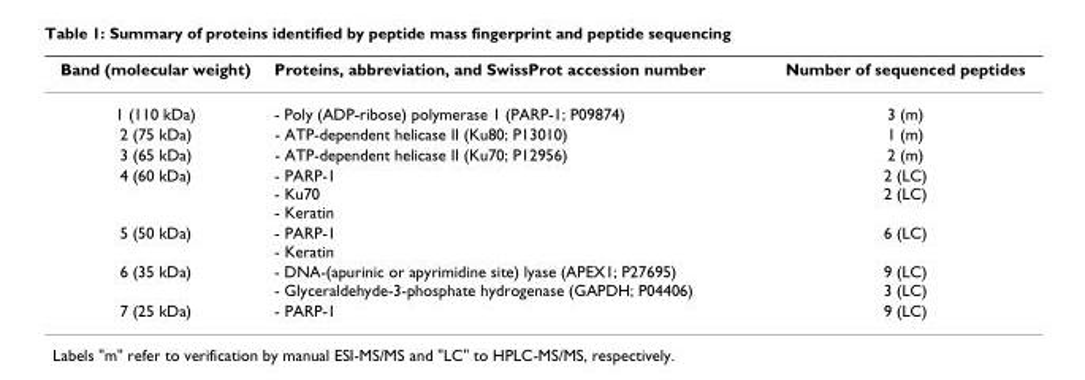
<table><thead><tr><td>Band (molecular weight)</td><td>Proteins, abbreviation, and SwissProt accession number</td><td>Number of sequenced peptides</td></tr></thead><tbody><tr><td>1 (110 kDa)</td><td>- Poly (ADP-ribose) polymerase 1 (PARP-1; P09874)</td><td>3 (m)</td></tr><tr><td>2 (75 kDa)</td><td>- ATP-dependent helicase II (Ku80; P13010)</td><td>1 (m)</td></tr><tr><td>3 (65 kDa)</td><td>- ATP-dependent helicase II (Ku70; P12956)</td><td>2 (m)</td></tr><tr><td>4 (60 kDa)</td><td>- PARP-1 - Ku70 - Keratin</td><td>2 (LC) 2 (LC)</td></tr><tr><td>5 (50 kDa)</td><td>- PARP-1 - Keratin</td><td>6 (LC)</td></tr><tr><td>6 (35 kDa)</td><td>- DNA-(apurinic or apyrimidine site) lyase (APEX1; P27695) - Glyceraldehyde-3-phosphate hydrogenase (GAPDH; P04406)</td><td>9 (LC) 3 (LC)</td></tr><tr><td>7 (25 kDa)</td><td>- PARP-1</td><td>9 (LC)</td></tr></tbody></table>